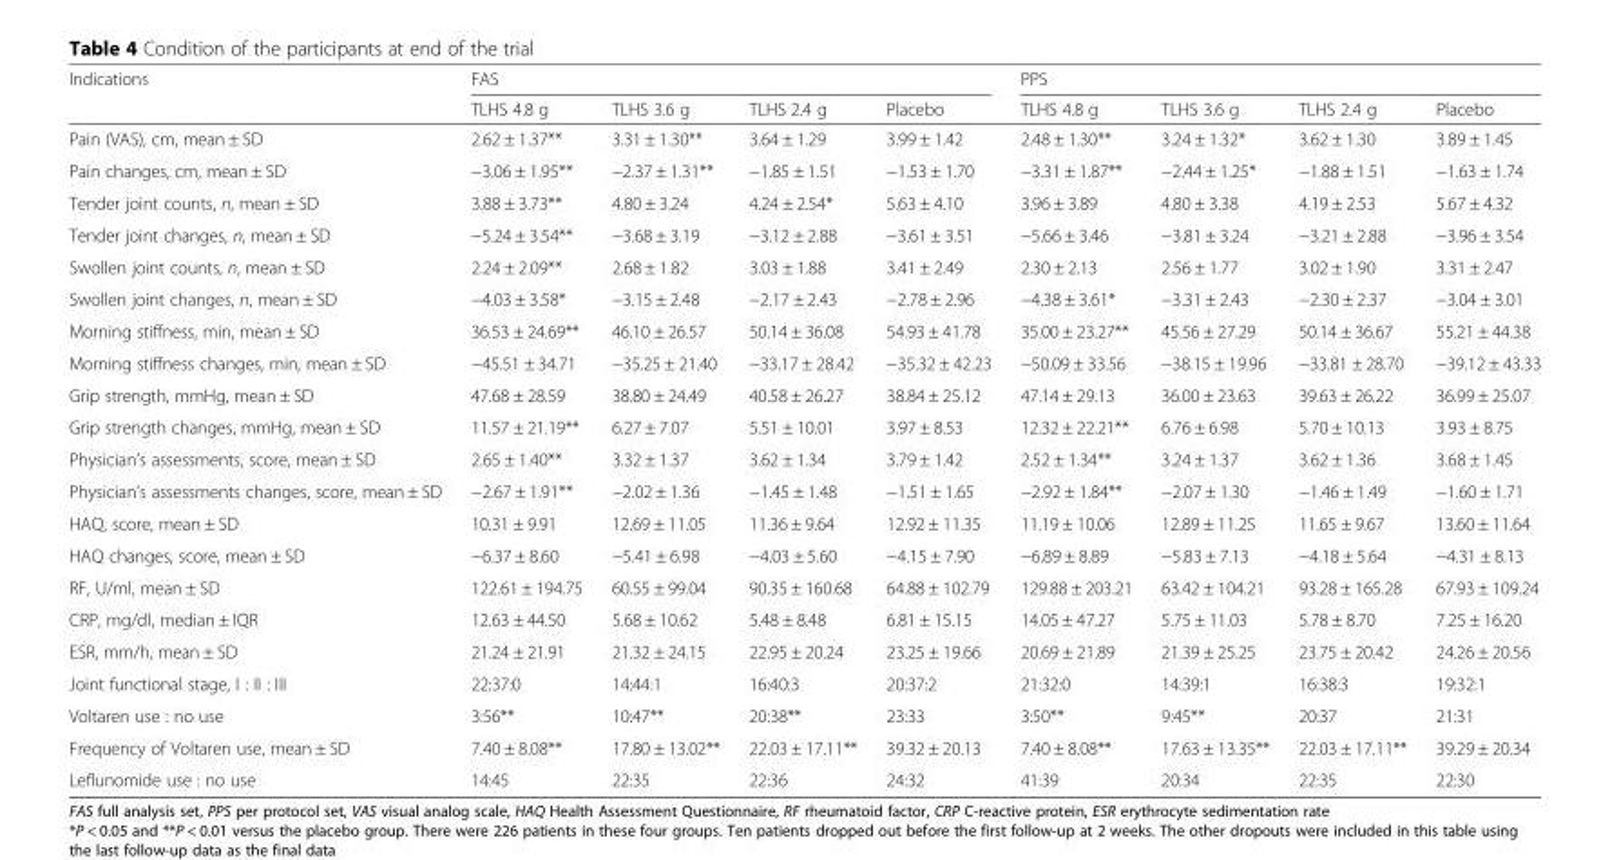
<table><thead><tr><td rowspan="2">Indications</td><td colspan="4">FAS</td><td colspan="4">PPS</td></tr><tr><td>TLHS 4.8 g</td><td>TLHS 3.6 g</td><td>TLHS 2.4 g</td><td>Placebo</td><td>TLHS 4.8 g</td><td>TLHS 3.6 g</td><td>TLHS 2.4 g</td><td>Placebo</td></tr></thead><tbody><tr><td>Pain (VAS), cm, mean ± SD</td><td>2.62 ± 1.37**</td><td>3.31 ± 1.30**</td><td>3.64 ± 1.29</td><td>3.99 ± 1.42</td><td>2.48 ± 1.30**</td><td>3.24 ± 1.32*</td><td>3.62 ± 1.30</td><td>3.89 ± 1.45</td></tr><tr><td>Pain changes, cm, mean ± SD</td><td>−3.06 ± 1.95**</td><td>−2.37 ± 1.31**</td><td>−1.85 ± 1.51</td><td>−1.53 ± 1.70</td><td>−3.31 ± 1.87**</td><td>−2.44 ± 1.25*</td><td>−1.88 ± 1.51</td><td>−1.63 ± 1.74</td></tr><tr><td>Tender joint counts, n, mean ± SD</td><td>3.88 ± 3.73**</td><td>4.80 ± 3.24</td><td>4.24 ± 2.54*</td><td>5.63 ± 4.10</td><td>3.96 ± 3.89</td><td>4.80 ± 3.38</td><td>4.19 ± 2.53</td><td>5.67 ± 4.32</td></tr><tr><td>Tender joint changes, n, mean ± SD</td><td>−5.24 ± 3.54**</td><td>−3.68 ± 3.19</td><td>−3.12 ± 2.88</td><td>−3.61 ± 3.51</td><td>−5.66 ± 3.46</td><td>−3.81 ± 3.24</td><td>−3.21 ± 2.88</td><td>−3.96 ± 3.54</td></tr><tr><td>Swollen joint counts, n, mean ± SD</td><td>2.24 ± 2.09**</td><td>2.68 ± 1.82</td><td>3.03 ± 1.88</td><td>3.41 ± 2.49</td><td>2.30 ± 2.13</td><td>2.56 ± 1.77</td><td>3.02 ± 1.90</td><td>3.31 ± 2.47</td></tr><tr><td>Swollen joint changes, n, mean ± SD</td><td>−4.03 ± 3.58*</td><td>−3.15 ± 2.48</td><td>−2.17 ± 2.43</td><td>−2.78 ± 2.96</td><td>−4.38 ± 3.61*</td><td>−3.31 ± 2.43</td><td>−2.30 ± 2.37</td><td>−3.04 ± 3.01</td></tr><tr><td>Morning stiffness, min, mean ± SD</td><td>36.53 ± 24.69**</td><td>46.10 ± 26.57</td><td>50.14 ± 36.08</td><td>54.93 ± 41.78</td><td>35.00 ± 23.27**</td><td>45.56 ± 27.29</td><td>50.14 ± 36.67</td><td>55.21 ± 44.38</td></tr><tr><td>Morning stiffness changes, min, mean ± SD</td><td>−45.51 ± 34.71</td><td>−35.25 ± 21.40</td><td>−33.17 ± 28.42</td><td>−35.32 ± 42.23</td><td>−50.09 ± 33.56</td><td>−38.15 ± 19.96</td><td>−33.81 ± 28.70</td><td>−39.12 ± 43.33</td></tr><tr><td>Grip strength, mmHg, mean ± SD</td><td>47.68 ± 28.59</td><td>38.80 ± 24.49</td><td>40.58 ± 26.27</td><td>38.84 ± 25.12</td><td>47.14 ± 29.13</td><td>36.00 ± 23.63</td><td>39.63 ± 26.22</td><td>36.99 ± 25.07</td></tr><tr><td>Grip strength changes, mmHg, mean ± SD</td><td>11.57 ± 21.19**</td><td>6.27 ± 7.07</td><td>5.51 ± 10.01</td><td>3.97 ± 8.53</td><td>12.32 ± 22.21**</td><td>6.76 ± 6.98</td><td>5.70 ± 10.13</td><td>3.93 ± 8.75</td></tr><tr><td>Physician’s assessments, score, mean ± SD</td><td>2.65 ± 1.40**</td><td>3.32 ± 1.37</td><td>3.62 ± 1.34</td><td>3.79 ± 1.42</td><td>2.52 ± 1.34**</td><td>3.24 ± 1.37</td><td>3.62 ± 1.36</td><td>3.68 ± 1.45</td></tr><tr><td>Physician’s assessments changes, score, mean ± SD</td><td>−2.67 ± 1.91**</td><td>−2.02 ± 1.36</td><td>−1.45 ± 1.48</td><td>−1.51 ± 1.65</td><td>−2.92 ± 1.84**</td><td>−2.07 ± 1.30</td><td>−1.46 ± 1.49</td><td>−1.60 ± 1.71</td></tr><tr><td>HAQ, score, mean ± SD</td><td>10.31 ± 9.91</td><td>12.69 ± 11.05</td><td>11.36 ± 9.64</td><td>12.92 ± 11.35</td><td>11.19 ± 10.06</td><td>12.89 ± 11.25</td><td>11.65 ± 9.67</td><td>13.60 ± 11.64</td></tr><tr><td>HAQ changes, score, mean ± SD</td><td>−6.37 ± 8.60</td><td>−5.41 ± 6.98</td><td>−4.03 ± 5.60</td><td>−4.15 ± 7.90</td><td>−6.89 ± 8.89</td><td>−5.83 ± 7.13</td><td>−4.18 ± 5.64</td><td>−4.31 ± 8.13</td></tr><tr><td>RF, U/ml, mean ± SD</td><td>122.61 ± 194.75</td><td>60.55 ± 99.04</td><td>90.35 ± 160.68</td><td>64.88 ± 102.79</td><td>129.88 ± 203.21</td><td>63.42 ± 104.21</td><td>93.28 ± 165.28</td><td>67.93 ± 109.24</td></tr><tr><td>CRP, mg/dl, median ± IQR</td><td>12.63 ± 44.50</td><td>5.68 ± 10.62</td><td>5.48 ± 8.48</td><td>6.81 ± 15.15</td><td>14.05 ± 47.27</td><td>5.75 ± 11.03</td><td>5.78 ± 8.70</td><td>7.25 ± 16.20</td></tr><tr><td>ESR, mm/h, mean ± SD</td><td>21.24 ± 21.91</td><td>21.32 ± 24.15</td><td>22.95 ± 20.24</td><td>23.25 ± 19.66</td><td>20.69 ± 21.89</td><td>21.39 ± 25.25</td><td>23.75 ± 20.42</td><td>24.26 ± 20.56</td></tr><tr><td>Joint functional stage, I : II : III</td><td>22:37:0</td><td>14:44:1</td><td>16:40:3</td><td>20:37:2</td><td>21:32:0</td><td>14:39:1</td><td>16:38:3</td><td>19:32:1</td></tr><tr><td>Voltaren use : no use</td><td>3:56**</td><td>10:47**</td><td>20:38**</td><td>23:33</td><td>3:50**</td><td>9:45**</td><td>20:37</td><td>21:31</td></tr><tr><td>Frequency of Voltaren use, mean ± SD</td><td>7.40 ± 8.08**</td><td>17.80 ± 13.02**</td><td>22.03 ± 17.11**</td><td>39.32 ± 20.13</td><td>7.40 ± 8.08**</td><td>17.63 ± 13.35**</td><td>22.03 ± 17.11**</td><td>39.29 ± 20.34</td></tr><tr><td>Leflunomide use : no use</td><td>14:45</td><td>22:35</td><td>22:36</td><td>24:32</td><td>41:39</td><td>20:34</td><td>22:35</td><td>22:30</td></tr></tbody></table>